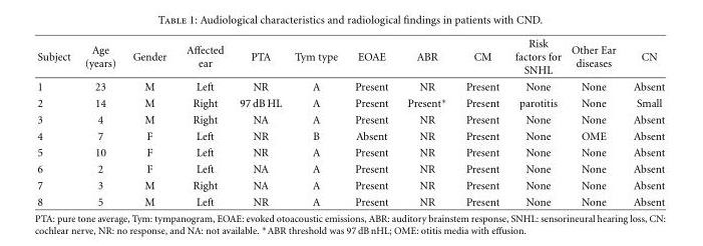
<table><thead><tr><td>Subject</td><td>Age (years)</td><td>Gender</td><td>Affected ear</td><td>PTA</td><td>Tym type</td><td>EOAE</td><td>ABR</td><td>CM</td><td>Risk factors for SNHL</td><td>Other Ear diseases</td><td>CN</td></tr></thead><tbody><tr><td>1</td><td>23</td><td>M</td><td>Left</td><td>NR</td><td>A</td><td>Present</td><td>NR</td><td>Present</td><td>None</td><td>None</td><td>Absent</td></tr><tr><td>2</td><td>14</td><td>M</td><td>Right</td><td>97 dB HL</td><td>A</td><td>Present</td><td>Present∗</td><td>Present</td><td>parotitis</td><td>None</td><td>Small</td></tr><tr><td>3</td><td>4</td><td>M</td><td>Right</td><td>NA</td><td>A</td><td>Present</td><td>NR</td><td>Present</td><td>None</td><td>None</td><td>Absent</td></tr><tr><td>4</td><td>7</td><td>F</td><td>Left</td><td>NR</td><td>B</td><td>Absent</td><td>NR</td><td>Present</td><td>None</td><td>OME</td><td>Absent</td></tr><tr><td>5</td><td>10</td><td>F</td><td>Left</td><td>NR</td><td>A</td><td>Present</td><td>NR</td><td>Present</td><td>None</td><td>None</td><td>Absent</td></tr><tr><td>6</td><td>2</td><td>F</td><td>Left</td><td>NA</td><td>A</td><td>Present</td><td>NR</td><td>Present</td><td>None</td><td>None</td><td>Absent</td></tr><tr><td>7</td><td>3</td><td>M</td><td>Right</td><td>NA</td><td>A</td><td>Present</td><td>NR</td><td>Present</td><td>None</td><td>None</td><td>Absent</td></tr><tr><td>8</td><td>5</td><td>M</td><td>Left</td><td>NR</td><td>A</td><td>Present</td><td>NR</td><td>Present</td><td>None</td><td>None</td><td>Absent</td></tr></tbody></table>